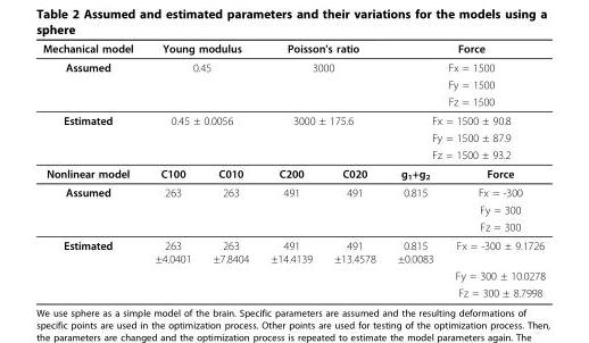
<table><thead><tr><td>Mechanical model</td><td colspan="2">Young modulus</td><td colspan="2">Poisson’s ratio</td><td colspan="2">Force</td></tr></thead><tbody><tr><td rowspan="3">Assumed</td><td colspan="2">0.45</td><td colspan="2">3000</td><td colspan="2">Fx = 1500</td></tr><tr><td></td><td></td><td></td><td></td><td colspan="2">Fy = 1500</td></tr><tr><td></td><td></td><td></td><td></td><td colspan="2">Fz = 1500</td></tr><tr><td rowspan="3">Estimated</td><td colspan="2">0.45 ± 0.0056</td><td colspan="2">3000 ± 175.6</td><td colspan="2">Fx = 1500 ± 90.8</td></tr><tr><td></td><td></td><td></td><td></td><td colspan="2">Fy = 1500 ± 87.9</td></tr><tr><td></td><td></td><td></td><td></td><td colspan="2">Fz = 1500 ± 93.2</td></tr><tr><td>Nonlinear model</td><td>C100</td><td>C010</td><td>C200</td><td>C020</td><td>g<sub>1</sub>+g<sub>2</sub></td><td>Force</td></tr><tr><td rowspan="3">Assumed</td><td>263</td><td>263</td><td>491</td><td>491</td><td>0.815</td><td>Fx = -300</td></tr><tr><td></td><td></td><td></td><td></td><td></td><td>Fy = 300</td></tr><tr><td></td><td></td><td></td><td></td><td></td><td>Fz = 300</td></tr><tr><td rowspan="3">Estimated</td><td>263 ±4.0401</td><td>263 ±7.8404</td><td>491 ±14.4139</td><td>491 ±13.4578</td><td>0.815 ±0.0083</td><td>Fx = -300 ± 9.1726</td></tr><tr><td></td><td></td><td></td><td></td><td></td><td>Fy = 300 ± 10.0278</td></tr><tr><td></td><td></td><td></td><td></td><td></td><td>Fz = 300 ± 8.7998</td></tr></tbody></table>